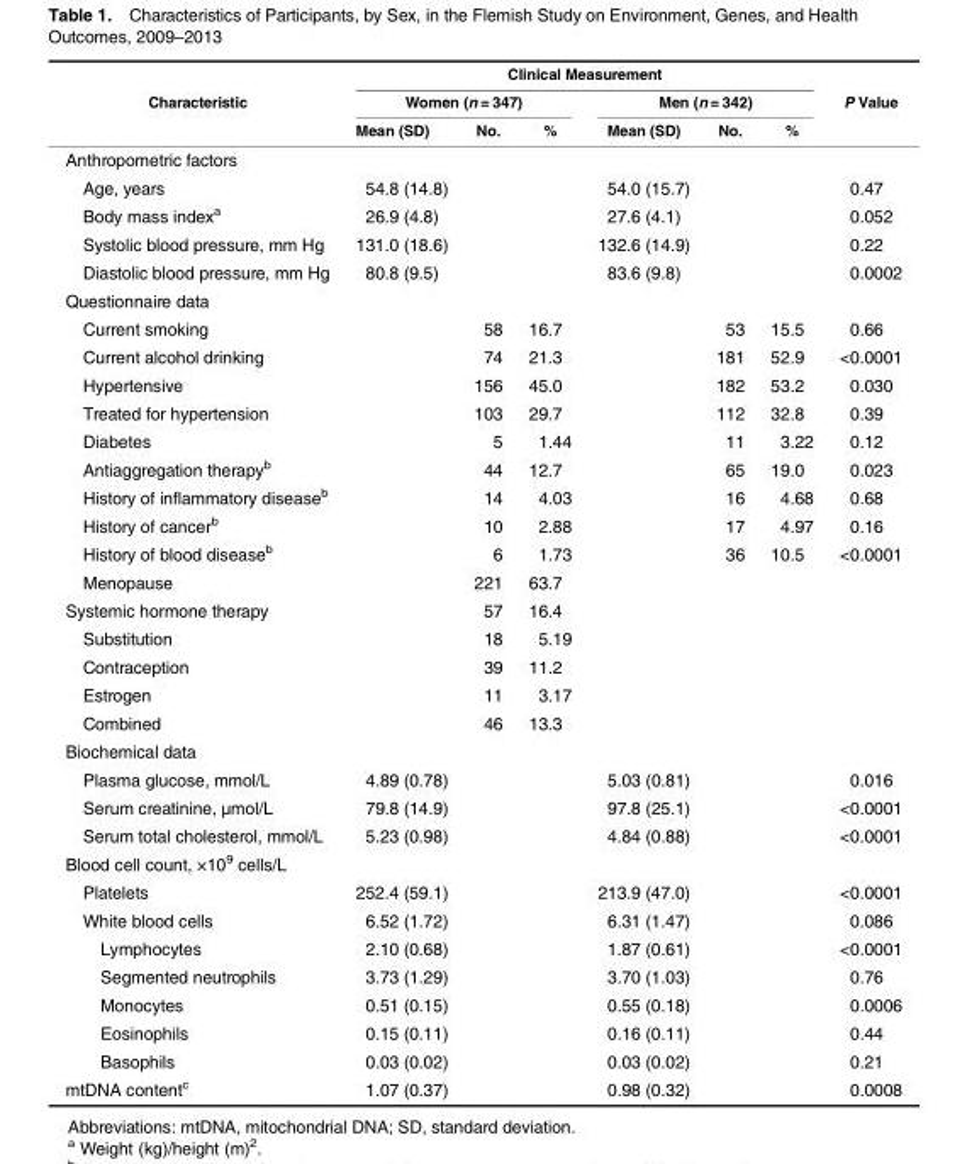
<table><thead><tr><td rowspan="3">Characteristic</td><td colspan="6">Clinical Measurement</td><td rowspan="3">P Value</td></tr><tr><td colspan="3">Women (n = 347)</td><td colspan="3">Men (n = 342)</td></tr><tr><td>Mean (SD)</td><td>No.</td><td>%</td><td>Mean (SD)</td><td>No.</td><td>%</td></tr></thead><tbody><tr><td colspan="8">Anthropometric factors</td></tr><tr><td>Age, years</td><td>54.8 (14.8)</td><td></td><td></td><td>54.0 (15.7)</td><td></td><td></td><td>0.47</td></tr><tr><td>Body mass index<sup>a</sup></td><td>26.9 (4.8)</td><td></td><td></td><td>27.6 (4.1)</td><td></td><td></td><td>0.052</td></tr><tr><td>Systolic blood pressure, mm Hg</td><td>131.0 (18.6)</td><td></td><td></td><td>132.6 (14.9)</td><td></td><td></td><td>0.22</td></tr><tr><td>Diastolic blood pressure, mm Hg</td><td>80.8 (9.5)</td><td></td><td></td><td>83.6 (9.8)</td><td></td><td></td><td>0.0002</td></tr><tr><td colspan="8">Questionnaire data</td></tr><tr><td>Current smoking</td><td></td><td>58</td><td>16.7</td><td></td><td>53</td><td>15.5</td><td>0.66</td></tr><tr><td>Current alcohol drinking</td><td></td><td>74</td><td>21.3</td><td></td><td>181</td><td>52.9</td><td>&lt;0.0001</td></tr><tr><td>Hypertensive</td><td></td><td>156</td><td>45.0</td><td></td><td>182</td><td>53.2</td><td>0.030</td></tr><tr><td>Treated for hypertension</td><td></td><td>103</td><td>29.7</td><td></td><td>112</td><td>32.8</td><td>0.39</td></tr><tr><td>Diabetes</td><td></td><td>5</td><td>1.44</td><td></td><td>11</td><td>3.22</td><td>0.12</td></tr><tr><td>Antiaggregation therapy<sup>b</sup></td><td></td><td>44</td><td>12.7</td><td></td><td>65</td><td>19.0</td><td>0.023</td></tr><tr><td>History of inflammatory disease<sup>b</sup></td><td></td><td>14</td><td>4.03</td><td></td><td>16</td><td>4.68</td><td>0.68</td></tr><tr><td>History of cancer<sup>b</sup></td><td></td><td>10</td><td>2.88</td><td></td><td>17</td><td>4.97</td><td>0.16</td></tr><tr><td>History of blood disease<sup>b</sup></td><td></td><td>6</td><td>1.73</td><td></td><td>36</td><td>10.5</td><td>&lt;0.0001</td></tr><tr><td>Menopause</td><td></td><td>221</td><td>63.7</td><td></td><td></td><td></td><td></td></tr><tr><td>Systemic hormone therapy</td><td></td><td>57</td><td>16.4</td><td></td><td></td><td></td><td></td></tr><tr><td>Substitution</td><td></td><td>18</td><td>5.19</td><td></td><td></td><td></td><td></td></tr><tr><td>Contraception</td><td></td><td>39</td><td>11.2</td><td></td><td></td><td></td><td></td></tr><tr><td>Estrogen</td><td></td><td>11</td><td>3.17</td><td></td><td></td><td></td><td></td></tr><tr><td>Combined</td><td></td><td>46</td><td>13.3</td><td></td><td></td><td></td><td></td></tr><tr><td colspan="8">Biochemical data</td></tr><tr><td>Plasma glucose, mmol/L</td><td>4.89 (0.78)</td><td></td><td></td><td>5.03 (0.81)</td><td></td><td></td><td>0.016</td></tr><tr><td>Serum creatinine, µmol/L</td><td>79.8 (14.9)</td><td></td><td></td><td>97.8 (25.1)</td><td></td><td></td><td>&lt;0.0001</td></tr><tr><td>Serum total cholesterol, mmol/L</td><td>5.23 (0.98)</td><td></td><td></td><td>4.84 (0.88)</td><td></td><td></td><td>&lt;0.0001</td></tr><tr><td colspan="8">Blood cell count, ×10<sup>9</sup> cells/L</td></tr><tr><td>Platelets</td><td>252.4 (59.1)</td><td></td><td></td><td>213.9 (47.0)</td><td></td><td></td><td>&lt;0.0001</td></tr><tr><td>White blood cells</td><td>6.52 (1.72)</td><td></td><td></td><td>6.31 (1.47)</td><td></td><td></td><td>0.086</td></tr><tr><td>Lymphocytes</td><td>2.10 (0.68)</td><td></td><td></td><td>1.87 (0.61)</td><td></td><td></td><td>&lt;0.0001</td></tr><tr><td>Segmented neutrophils</td><td>3.73 (1.29)</td><td></td><td></td><td>3.70 (1.03)</td><td></td><td></td><td>0.76</td></tr><tr><td>Monocytes</td><td>0.51 (0.15)</td><td></td><td></td><td>0.55 (0.18)</td><td></td><td></td><td>0.0006</td></tr><tr><td>Eosinophils</td><td>0.15 (0.11)</td><td></td><td></td><td>0.16 (0.11)</td><td></td><td></td><td>0.44</td></tr><tr><td>Basophils</td><td>0.03 (0.02)</td><td></td><td></td><td>0.03 (0.02)</td><td></td><td></td><td>0.21</td></tr><tr><td>mtDNA content<sup>c</sup></td><td>1.07 (0.37)</td><td></td><td></td><td>0.98 (0.32)</td><td></td><td></td><td>0.0008</td></tr></tbody></table>